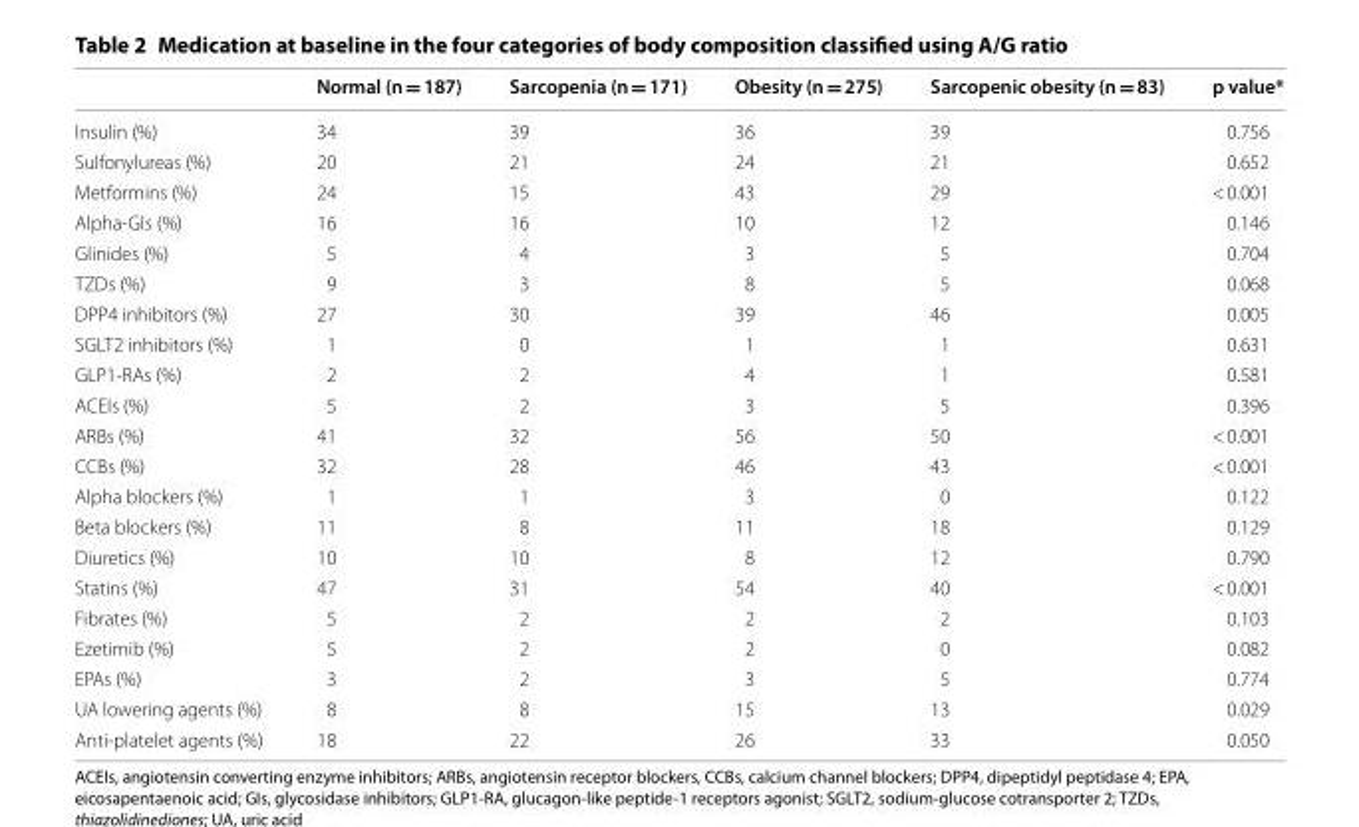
<table><thead><tr><td></td><td>Normal (n = 187)</td><td>Sarcopenia (n = 171)</td><td>Obesity (n = 275)</td><td>Sarcopenic obesity (n = 83)</td><td>p value*</td></tr></thead><tbody><tr><td>Insulin (%)</td><td>34</td><td>39</td><td>36</td><td>39</td><td>0.756</td></tr><tr><td>Sulfonylureas (%)</td><td>20</td><td>21</td><td>24</td><td>21</td><td>0.652</td></tr><tr><td>Metformins (%)</td><td>24</td><td>15</td><td>43</td><td>29</td><td>&lt; 0.001</td></tr><tr><td>Alpha-GIs (%)</td><td>16</td><td>16</td><td>10</td><td>12</td><td>0.146</td></tr><tr><td>Glinides (%)</td><td>5</td><td>4</td><td>3</td><td>5</td><td>0.704</td></tr><tr><td>TZDs (%)</td><td>9</td><td>3</td><td>8</td><td>5</td><td>0.068</td></tr><tr><td>DPP4 inhibitors (%)</td><td>27</td><td>30</td><td>39</td><td>46</td><td>0.005</td></tr><tr><td>SGLT2 inhibitors (%)</td><td>1</td><td>0</td><td>1</td><td>1</td><td>0.631</td></tr><tr><td>GLP1-RAs (%)</td><td>2</td><td>2</td><td>4</td><td>1</td><td>0.581</td></tr><tr><td>ACEIs (%)</td><td>5</td><td>2</td><td>3</td><td>5</td><td>0.396</td></tr><tr><td>ARBs (%)</td><td>41</td><td>32</td><td>56</td><td>50</td><td>&lt; 0.001</td></tr><tr><td>CCBs (%)</td><td>32</td><td>28</td><td>46</td><td>43</td><td>&lt; 0.001</td></tr><tr><td>Alpha blockers (%)</td><td>1</td><td>1</td><td>3</td><td>0</td><td>0.122</td></tr><tr><td>Beta blockers (%)</td><td>11</td><td>8</td><td>11</td><td>18</td><td>0.129</td></tr><tr><td>Diuretics (%)</td><td>10</td><td>10</td><td>8</td><td>12</td><td>0.790</td></tr><tr><td>Statins (%)</td><td>47</td><td>31</td><td>54</td><td>40</td><td>&lt; 0.001</td></tr><tr><td>Fibrates (%)</td><td>5</td><td>2</td><td>2</td><td>2</td><td>0.103</td></tr><tr><td>Ezetimib (%)</td><td>5</td><td>2</td><td>2</td><td>0</td><td>0.082</td></tr><tr><td>EPAs (%)</td><td>3</td><td>2</td><td>3</td><td>5</td><td>0.774</td></tr><tr><td>UA lowering agents (%)</td><td>8</td><td>8</td><td>15</td><td>13</td><td>0.029</td></tr><tr><td>Anti-platelet agents (%)</td><td>18</td><td>22</td><td>26</td><td>33</td><td>0.050</td></tr></tbody></table>